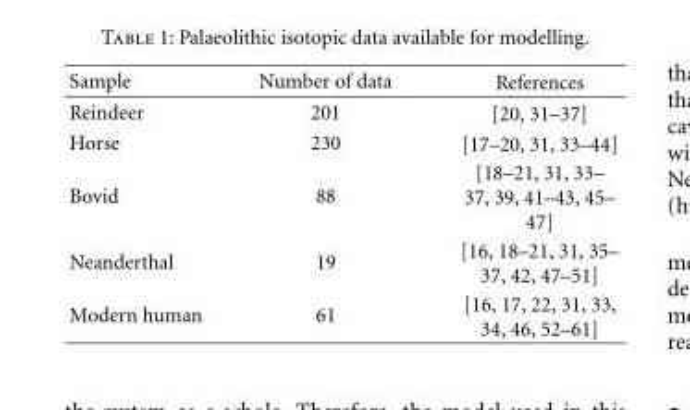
<table><thead><tr><td>Sample</td><td>Number of data</td><td>References</td></tr></thead><tbody><tr><td>Reindeer</td><td>201</td><td>[20, 31–37]</td></tr><tr><td>Horse</td><td>230</td><td>[17–20, 31, 33–44]</td></tr><tr><td>Bovid</td><td>88</td><td>[18–21, 31, 33– 37, 39, 41–43, 45– 47]</td></tr><tr><td>Neanderthal</td><td>19</td><td>[16, 18–21, 31, 35– 37, 42, 47–51]</td></tr><tr><td>Modern human</td><td>61</td><td>[16, 17, 22, 31, 33, 34, 46, 52–61]</td></tr></tbody></table>